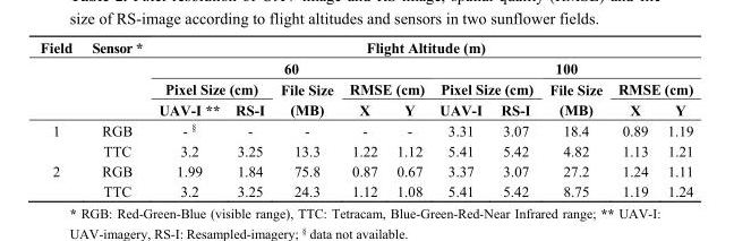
<table><thead><tr><td rowspan="4">Field</td><td rowspan="4">Sensor *</td><td colspan="10">Flight Altitude (m)</td></tr><tr><td colspan="5">60</td><td colspan="5">100</td></tr><tr><td colspan="2">Pixel Size (cm)</td><td rowspan="2">File Size (MB)</td><td colspan="2">RMSE (cm)</td><td colspan="2">Pixel Size (cm)</td><td rowspan="2">File Size (MB)</td><td colspan="2">RMSE (cm)</td></tr><tr><td>UAV-I **</td><td>RS-I</td><td>X</td><td>Y</td><td>UAV-I</td><td>RS-I</td><td>X</td><td>Y</td></tr></thead><tbody><tr><td rowspan="2">1</td><td>RGB</td><td>- <sup>§</sup></td><td>-</td><td>-</td><td>-</td><td>-</td><td>3.31</td><td>3.07</td><td>18.4</td><td>0.89</td><td>1.19</td></tr><tr><td>TTC</td><td>3.2</td><td>3.25</td><td>13.3</td><td>1.22</td><td>1.12</td><td>5.41</td><td>5.42</td><td>4.82</td><td>1.13</td><td>1.21</td></tr><tr><td rowspan="2">2</td><td>RGB</td><td>1.99</td><td>1.84</td><td>75.8</td><td>0.87</td><td>0.67</td><td>3.37</td><td>3.07</td><td>27.2</td><td>1.24</td><td>1.11</td></tr><tr><td>TTC</td><td>3.2</td><td>3.25</td><td>24.3</td><td>1.12</td><td>1.08</td><td>5.41</td><td>5.42</td><td>8.75</td><td>1.19</td><td>1.24</td></tr></tbody></table>